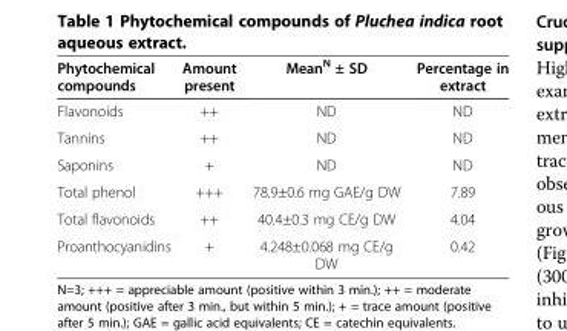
<table><thead><tr><td>Phytochemical compounds</td><td>Amount present</td><td>Mean<sup>N</sup> ± SD</td><td>Percentage in extract</td></tr></thead><tbody><tr><td>Flavonoids</td><td>++</td><td>ND</td><td>ND</td></tr><tr><td>Tannins</td><td>++</td><td>ND</td><td>ND</td></tr><tr><td>Saponins</td><td>+</td><td>ND</td><td>ND</td></tr><tr><td>Total phenol</td><td>+++</td><td>78.9±0.6 mg GAE/g DW</td><td>7.89</td></tr><tr><td>Total flavonoids</td><td>++</td><td>40.4±0.3 mg CE/g DW</td><td>4.04</td></tr><tr><td>Proanthocyanidins</td><td>+</td><td>4.248±0.068 mg CE/g DW</td><td>0.42</td></tr></tbody></table>